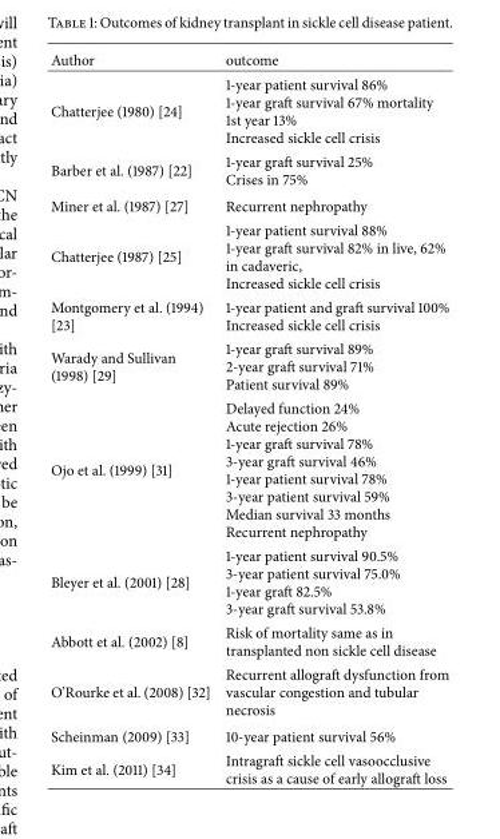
<table><thead><tr><td>Author</td><td>outcome</td></tr></thead><tbody><tr><td>Chatterjee (1980) [24]</td><td>1-year patient survival 86% 1-year graft survival 67% mortality 1st year 13% Increased sickle cell crisis</td></tr><tr><td>Barber et al. (1987) [22]</td><td>1-year graft survival 25% Crises in 75%</td></tr><tr><td>Miner et al. (1987) [27]</td><td>Recurrent nephropathy</td></tr><tr><td>Chatterjee (1987) [25]</td><td>1-year patient survival 88% 1-year graft survival 82% in live, 62% in cadaveric, Increased sickle cell crisis</td></tr><tr><td>Montgomery et al. (1994) [23]</td><td>1-year patient and graft survival 100% Increased sickle cell crisis</td></tr><tr><td>Warady and Sullivan (1998) [29]</td><td>1-year graft survival 89% 2-year graft survival 71% Patient survival 89%</td></tr><tr><td>Ojo et al. (1999) [31]</td><td>Delayed function 24% Acute rejection 26% 1-year graft survival 78% 3-year graft survival 46% 1-year patient survival 78% 3-year patient survival 59% Median survival 33 months Recurrent nephropathy</td></tr><tr><td>Bleyer et al. (2001) [28]</td><td>1-year patient survival 90.5% 3-year patient survival 75.0% 1-year graft 82.5% 3-year graft survival 53.8%</td></tr><tr><td>Abbott et al. (2002) [8]</td><td>Risk of mortality same as in transplanted non sickle cell disease</td></tr><tr><td>O’Rourke et al. (2008) [32]</td><td>Recurrent allograft dysfunction from vascular congestion and tubular necrosis</td></tr><tr><td>Scheinman (2009) [33]</td><td>10-year patient survival 56%</td></tr><tr><td>Kim et al. (2011) [34]</td><td>Intragraft sickle cell vasoocclusive crisis as a cause of early allograft loss</td></tr></tbody></table>